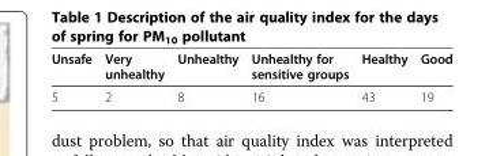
<table><thead><tr><td>Unsafe</td><td>Very unhealthy</td><td>Unhealthy</td><td>Unhealthy for sensitive groups</td><td>Healthy</td><td>Good</td></tr></thead><tbody><tr><td>5</td><td>2</td><td>8</td><td>16</td><td>43</td><td>19</td></tr></tbody></table>